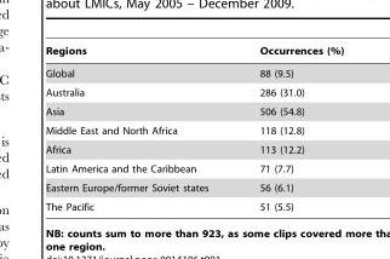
<table><thead><tr><td>Regions</td><td>Occurrences (%)</td></tr></thead><tbody><tr><td>Global</td><td>88 (9.5)</td></tr><tr><td>Australia</td><td>286 (31.0)</td></tr><tr><td>Asia</td><td>506 (54.8)</td></tr><tr><td>Middle East and North Africa</td><td>118 (12.8)</td></tr><tr><td>Africa</td><td>113 (12.2)</td></tr><tr><td>Latin America and the Caribbean</td><td>71 (7.7)</td></tr><tr><td>Eastern Europe/former Soviet states</td><td>56 (6.1)</td></tr><tr><td>The Pacific</td><td>51 (5.5)</td></tr></tbody></table>